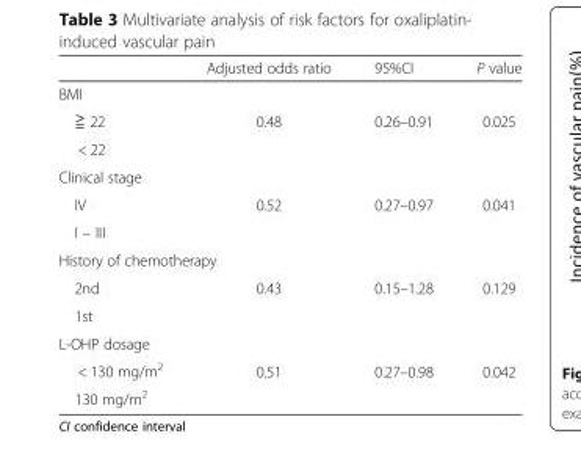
<table><thead><tr><td></td><td>Adjusted odds ratio</td><td>95%CI</td><td>P value</td></tr></thead><tbody><tr><td colspan="4">BMI</td></tr><tr><td>≧ 22</td><td>0.48</td><td>0.26–0.91</td><td>0.025</td></tr><tr><td colspan="4">&lt; 22</td></tr><tr><td colspan="4">Clinical stage</td></tr><tr><td>IV</td><td>0.52</td><td>0.27–0.97</td><td>0.041</td></tr><tr><td colspan="4">I – III</td></tr><tr><td colspan="4">History of chemotherapy</td></tr><tr><td>2nd</td><td>0.43</td><td>0.15–1.28</td><td>0.129</td></tr><tr><td colspan="4">1st</td></tr><tr><td colspan="4">L-OHP dosage</td></tr><tr><td>&lt; 130 mg/m<sup>2</sup></td><td>0.51</td><td>0.27–0.98</td><td>0.042</td></tr><tr><td>130 mg/m<sup>2</sup></td><td></td><td></td><td></td></tr></tbody></table>